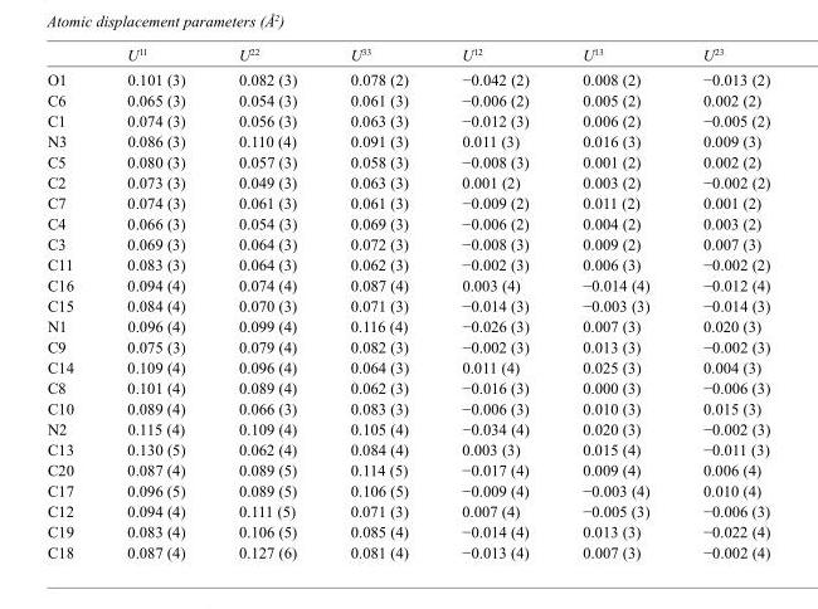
<table><thead><tr><td></td><td>U<sup>11</sup></td><td>U<sup>22</sup></td><td>U<sup>33</sup></td><td>U<sup>12</sup></td><td>U<sup>13</sup></td><td>U<sup>23</sup></td></tr></thead><tbody><tr><td>O1</td><td>0.101 (3)</td><td>0.082 (3)</td><td>0.078 (2)</td><td>−0.042 (2)</td><td>0.008 (2)</td><td>−0.013 (2)</td></tr><tr><td>C6</td><td>0.065 (3)</td><td>0.054 (3)</td><td>0.061 (3)</td><td>−0.006 (2)</td><td>0.005 (2)</td><td>0.002 (2)</td></tr><tr><td>C1</td><td>0.074 (3)</td><td>0.056 (3)</td><td>0.063 (3)</td><td>−0.012 (3)</td><td>0.006 (2)</td><td>−0.005 (2)</td></tr><tr><td>N3</td><td>0.086 (3)</td><td>0.110 (4)</td><td>0.091 (3)</td><td>0.011 (3)</td><td>0.016 (3)</td><td>0.009 (3)</td></tr><tr><td>C5</td><td>0.080 (3)</td><td>0.057 (3)</td><td>0.058 (3)</td><td>−0.008 (3)</td><td>0.001 (2)</td><td>0.002 (2)</td></tr><tr><td>C2</td><td>0.073 (3)</td><td>0.049 (3)</td><td>0.063 (3)</td><td>0.001 (2)</td><td>0.003 (2)</td><td>−0.002 (2)</td></tr><tr><td>C7</td><td>0.074 (3)</td><td>0.061 (3)</td><td>0.061 (3)</td><td>−0.009 (2)</td><td>0.011 (2)</td><td>0.001 (2)</td></tr><tr><td>C4</td><td>0.066 (3)</td><td>0.054 (3)</td><td>0.069 (3)</td><td>−0.006 (2)</td><td>0.004 (2)</td><td>0.003 (2)</td></tr><tr><td>C3</td><td>0.069 (3)</td><td>0.064 (3)</td><td>0.072 (3)</td><td>−0.008 (3)</td><td>0.009 (2)</td><td>0.007 (3)</td></tr><tr><td>C11</td><td>0.083 (3)</td><td>0.064 (3)</td><td>0.062 (3)</td><td>−0.002 (3)</td><td>0.006 (3)</td><td>−0.002 (2)</td></tr><tr><td>C16</td><td>0.094 (4)</td><td>0.074 (4)</td><td>0.087 (4)</td><td>0.003 (4)</td><td>−0.014 (4)</td><td>−0.012 (4)</td></tr><tr><td>C15</td><td>0.084 (4)</td><td>0.070 (3)</td><td>0.071 (3)</td><td>−0.014 (3)</td><td>−0.003 (3)</td><td>−0.014 (3)</td></tr><tr><td>N1</td><td>0.096 (4)</td><td>0.099 (4)</td><td>0.116 (4)</td><td>−0.026 (3)</td><td>0.007 (3)</td><td>0.020 (3)</td></tr><tr><td>C9</td><td>0.075 (3)</td><td>0.079 (4)</td><td>0.082 (3)</td><td>−0.002 (3)</td><td>0.013 (3)</td><td>−0.002 (3)</td></tr><tr><td>C14</td><td>0.109 (4)</td><td>0.096 (4)</td><td>0.064 (3)</td><td>0.011 (4)</td><td>0.025 (3)</td><td>0.004 (3)</td></tr><tr><td>C8</td><td>0.101 (4)</td><td>0.089 (4)</td><td>0.062 (3)</td><td>−0.016 (3)</td><td>0.000 (3)</td><td>−0.006 (3)</td></tr><tr><td>C10</td><td>0.089 (4)</td><td>0.066 (3)</td><td>0.083 (3)</td><td>−0.006 (3)</td><td>0.010 (3)</td><td>0.015 (3)</td></tr><tr><td>N2</td><td>0.115 (4)</td><td>0.109 (4)</td><td>0.105 (4)</td><td>−0.034 (4)</td><td>0.020 (3)</td><td>−0.002 (3)</td></tr><tr><td>C13</td><td>0.130 (5)</td><td>0.062 (4)</td><td>0.084 (4)</td><td>0.003 (3)</td><td>0.015 (4)</td><td>−0.011 (3)</td></tr><tr><td>C20</td><td>0.087 (4)</td><td>0.089 (5)</td><td>0.114 (5)</td><td>−0.017 (4)</td><td>0.009 (4)</td><td>0.006 (4)</td></tr><tr><td>C17</td><td>0.096 (5)</td><td>0.089 (5)</td><td>0.106 (5)</td><td>−0.009 (4)</td><td>−0.003 (4)</td><td>0.010 (4)</td></tr><tr><td>C12</td><td>0.094 (4)</td><td>0.111 (5)</td><td>0.071 (3)</td><td>0.007 (4)</td><td>−0.005 (3)</td><td>−0.006 (3)</td></tr><tr><td>C19</td><td>0.083 (4)</td><td>0.106 (5)</td><td>0.085 (4)</td><td>−0.014 (4)</td><td>0.013 (3)</td><td>−0.022 (4)</td></tr><tr><td>C18</td><td>0.087 (4)</td><td>0.127 (6)</td><td>0.081 (4)</td><td>−0.013 (4)</td><td>0.007 (3)</td><td>−0.002 (4)</td></tr></tbody></table>